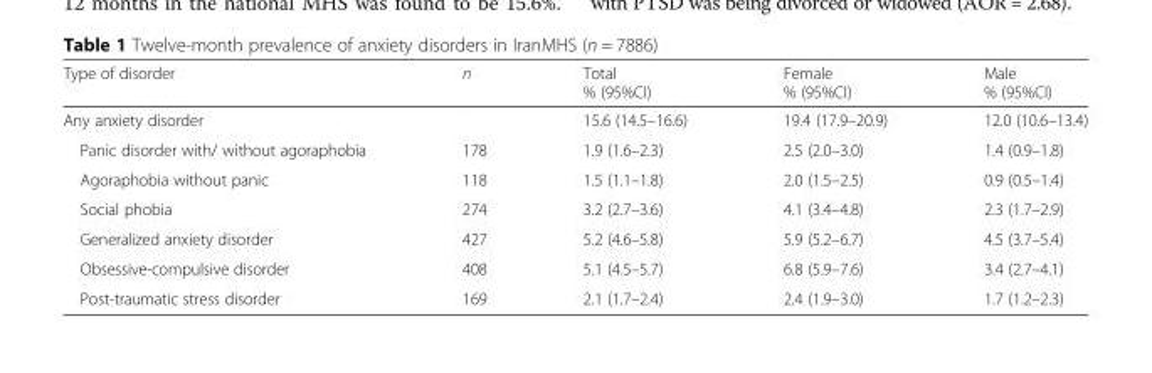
<table><thead><tr><td>Type of disorder</td><td>n</td><td>Total % (95%CI)</td><td>Female % (95%CI)</td><td>Male % (95%CI)</td></tr></thead><tbody><tr><td>Any anxiety disorder</td><td></td><td>15.6 (14.5–16.6)</td><td>19.4 (17.9–20.9)</td><td>12.0 (10.6–13.4)</td></tr><tr><td>Panic disorder with/ without agoraphobia</td><td>178</td><td>1.9 (1.6–2.3)</td><td>2.5 (2.0–3.0)</td><td>1.4 (0.9–1.8)</td></tr><tr><td>Agoraphobia without panic</td><td>118</td><td>1.5 (1.1–1.8)</td><td>2.0 (1.5–2.5)</td><td>0.9 (0.5–1.4)</td></tr><tr><td>Social phobia</td><td>274</td><td>3.2 (2.7–3.6)</td><td>4.1 (3.4–4.8)</td><td>2.3 (1.7–2.9)</td></tr><tr><td>Generalized anxiety disorder</td><td>427</td><td>5.2 (4.6–5.8)</td><td>5.9 (5.2–6.7)</td><td>4.5 (3.7–5.4)</td></tr><tr><td>Obsessive-compulsive disorder</td><td>408</td><td>5.1 (4.5–5.7)</td><td>6.8 (5.9–7.6)</td><td>3.4 (2.7–4.1)</td></tr><tr><td>Post-traumatic stress disorder</td><td>169</td><td>2.1 (1.7–2.4)</td><td>2.4 (1.9–3.0)</td><td>1.7 (1.2–2.3)</td></tr></tbody></table>